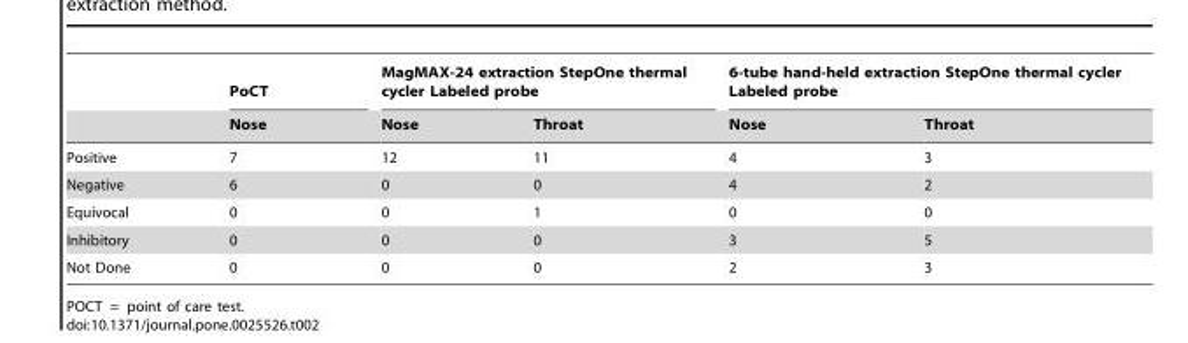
<table><thead><tr><td rowspan="2"></td><td rowspan="2">PoCT Nose</td><td colspan="2">MagMAX-24 extraction StepOne thermal cycler Labeled probe</td><td colspan="2">6-tube hand-held extraction StepOne thermal cycler Labeled probe</td></tr><tr><td>Nose</td><td>Throat</td><td>Nose</td><td>Throat</td></tr></thead><tbody><tr><td>Positive</td><td>7</td><td>12</td><td>11</td><td>4</td><td>3</td></tr><tr><td>Negative</td><td>6</td><td>0</td><td>0</td><td>4</td><td>2</td></tr><tr><td>Equivocal</td><td>0</td><td>0</td><td>1</td><td>0</td><td>0</td></tr><tr><td>Inhibitory</td><td>0</td><td>0</td><td>0</td><td>3</td><td>5</td></tr><tr><td>Not Done</td><td>0</td><td>0</td><td>0</td><td>2</td><td>3</td></tr></tbody></table>